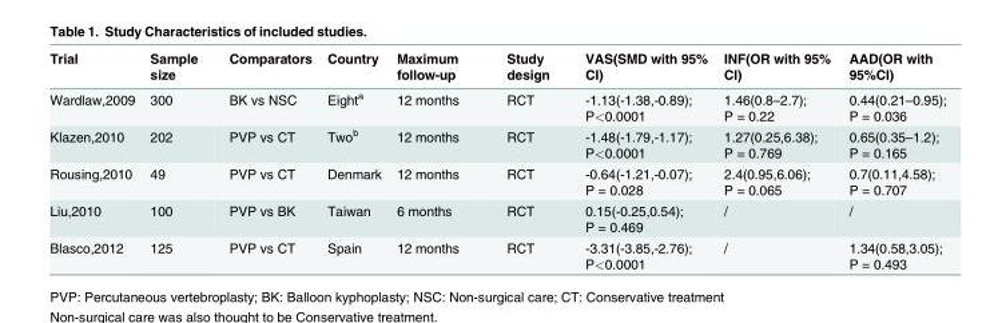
<table><thead><tr><td>Trial</td><td>Sample size</td><td>Comparators</td><td>Country</td><td>Maximum follow-up</td><td>Study design</td><td>VAS(SMD with 95% CI)</td><td>INF(OR with 95% CI)</td><td>AAD(OR with 95%CI)</td></tr></thead><tbody><tr><td>Wardlaw,2009</td><td>300</td><td>BK vs NSC</td><td>Eight<sup>a</sup></td><td>12 months</td><td>RCT</td><td>-1.13(-1.38,-0.89); P&lt;0.0001</td><td>1.46(0.8–2.7); P = 0.22</td><td>0.44(0.21–0.95); P = 0.036</td></tr><tr><td>Klazen,2010</td><td>202</td><td>PVP vs CT</td><td>Two<sup>b</sup></td><td>12 months</td><td>RCT</td><td>-1.48(-1.79,-1.17); P&lt;0.0001</td><td>1.27(0.25,6.38); P = 0.769</td><td>0.65(0.35–1.2); P = 0.165</td></tr><tr><td>Rousing,2010</td><td>49</td><td>PVP vs CT</td><td>Denmark</td><td>12 months</td><td>RCT</td><td>-0.64(-1.21,-0.07); P = 0.028</td><td>2.4(0.95,6.06); P = 0.065</td><td>0.7(0.11,4.58); P = 0.707</td></tr><tr><td>Liu,2010</td><td>100</td><td>PVP vs BK</td><td>Taiwan</td><td>6 months</td><td>RCT</td><td>0.15(-0.25,0.54); P = 0.469</td><td>/</td><td>/</td></tr><tr><td>Blasco,2012</td><td>125</td><td>PVP vs CT</td><td>Spain</td><td>12 months</td><td>RCT</td><td>-3.31(-3.85,-2.76); P&lt;0.0001</td><td>/</td><td>1.34(0.58,3.05); P = 0.493</td></tr></tbody></table>